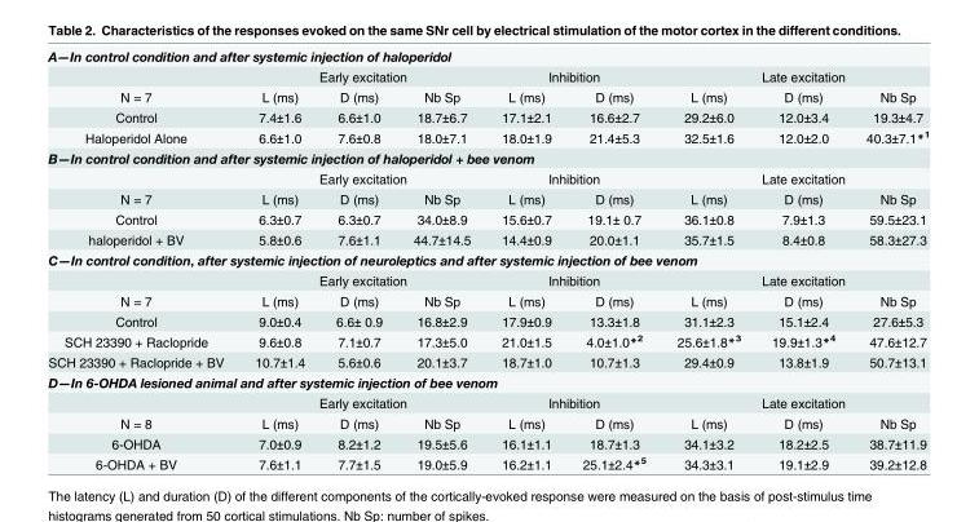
<table><tbody><tr><td colspan="9">A—In control condition and after systemic injection of haloperidol</td></tr><tr><td></td><td colspan="3">Early excitation</td><td colspan="2">Inhibition</td><td colspan="3">Late excitation</td></tr><tr><td>N = 7</td><td>L (ms)</td><td>D (ms)</td><td>Nb Sp</td><td>L (ms)</td><td>D (ms)</td><td>L (ms)</td><td>D (ms)</td><td>Nb Sp</td></tr><tr><td>Control</td><td>7.4±1.6</td><td>6.6±1.0</td><td>18.7±6.7</td><td>17.1±2.1</td><td>16.6±2.7</td><td>29.2±6.0</td><td>12.0±3.4</td><td>19.3±4.7</td></tr><tr><td>Haloperidol Alone</td><td>6.6±1.0</td><td>7.6±0.8</td><td>18.0±7.1</td><td>18.0±1.9</td><td>21.4±5.3</td><td>32.5±1.6</td><td>12.0±2.0</td><td>40.3±7.1*<sup>1</sup></td></tr><tr><td colspan="9">B—In control condition and after systemic injection of haloperidol + bee venom</td></tr><tr><td></td><td colspan="3">Early excitation</td><td colspan="2">Inhibition</td><td colspan="3">Late excitation</td></tr><tr><td>N = 7</td><td>L (ms)</td><td>D (ms)</td><td>Nb Sp</td><td>L (ms)</td><td>D (ms)</td><td>L (ms)</td><td>D (ms)</td><td>Nb Sp</td></tr><tr><td>Control</td><td>6.3±0.7</td><td>6.3±0.7</td><td>34.0±8.9</td><td>15.6±0.7</td><td>19.1± 0.7</td><td>36.1±0.8</td><td>7.9±1.3</td><td>59.5±23.1</td></tr><tr><td>haloperidol + BV</td><td>5.8±0.6</td><td>7.6±1.1</td><td>44.7±14.5</td><td>14.4±0.9</td><td>20.0±1.1</td><td>35.7±1.5</td><td>8.4±0.8</td><td>58.3±27.3</td></tr><tr><td colspan="9">C—In control condition, after systemic injection of neuroleptics and after systemic injection of bee venom</td></tr><tr><td></td><td colspan="3">Early excitation</td><td colspan="2">Inhibition</td><td colspan="3">Late excitation</td></tr><tr><td>N = 7</td><td>L (ms)</td><td>D (ms)</td><td>Nb Sp</td><td>L (ms)</td><td>D (ms)</td><td>L (ms)</td><td>D (ms)</td><td>Nb Sp</td></tr><tr><td>Control</td><td>9.0±0.4</td><td>6.6± 0.9</td><td>16.8±2.9</td><td>17.9±0.9</td><td>13.3±1.8</td><td>31.1±2.3</td><td>15.1±2.4</td><td>27.6±5.3</td></tr><tr><td>SCH 23390 + Raclopride</td><td>9.6±0.8</td><td>7.1±0.7</td><td>17.3±5.0</td><td>21.0±1.5</td><td>4.0±1.0*<sup>2</sup></td><td>25.6±1.8*<sup>3</sup></td><td>19.9±1.3*<sup>4</sup></td><td>47.6±12.7</td></tr><tr><td>SCH 23390 + Raclopride + BV</td><td>10.7±1.4</td><td>5.6±0.6</td><td>20.1±3.7</td><td>18.7±1.0</td><td>10.7±1.3</td><td>29.4±0.9</td><td>13.8±1.9</td><td>50.7±13.1</td></tr><tr><td colspan="9">D—In 6-OHDA lesioned animal and after systemic injection of bee venom</td></tr><tr><td></td><td colspan="3">Early excitation</td><td colspan="2">Inhibition</td><td colspan="3">Late excitation</td></tr><tr><td>N = 8</td><td>L (ms)</td><td>D (ms)</td><td>Nb Sp</td><td>L (ms)</td><td>D (ms)</td><td>L (ms)</td><td>D (ms)</td><td>Nb Sp</td></tr><tr><td>6-OHDA</td><td>7.0±0.9</td><td>8.2±1.2</td><td>19.5±5.6</td><td>16.1±1.1</td><td>18.7±1.3</td><td>34.1±3.2</td><td>18.2±2.5</td><td>38.7±11.9</td></tr><tr><td>6-OHDA + BV</td><td>7.6±1.1</td><td>7.7±1.5</td><td>19.0±5.9</td><td>16.2±1.1</td><td>25.1±2.4*<sup>5</sup></td><td>34.3±3.1</td><td>19.1±2.9</td><td>39.2±12.8</td></tr></tbody></table>